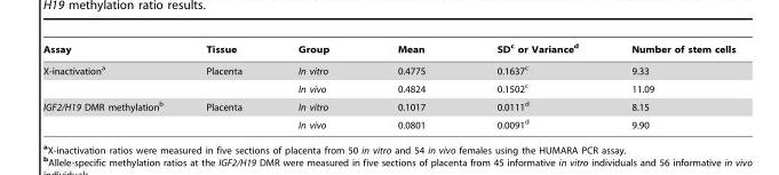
<table><thead><tr><td>Assay</td><td>Tissue</td><td>Group</td><td>Mean</td><td>SD<sup>c</sup> or Variance<sup>d</sup></td><td>Number of stem cells</td></tr></thead><tbody><tr><td rowspan="2">X-inactivation<sup>a</sup></td><td>Placenta</td><td>In vitro</td><td>0.4775</td><td>0.1637<sup>c</sup></td><td>9.33</td></tr><tr><td></td><td>In vivo</td><td>0.4824</td><td>0.1502<sup>c</sup></td><td>11.09</td></tr><tr><td rowspan="2">IGF2/H19 DMR methylation<sup>b</sup></td><td>Placenta</td><td>In vitro</td><td>0.1017</td><td>0.0111<sup>d</sup></td><td>8.15</td></tr><tr><td></td><td>In vivo</td><td>0.0801</td><td>0.0091<sup>d</sup></td><td>9.90</td></tr></tbody></table>